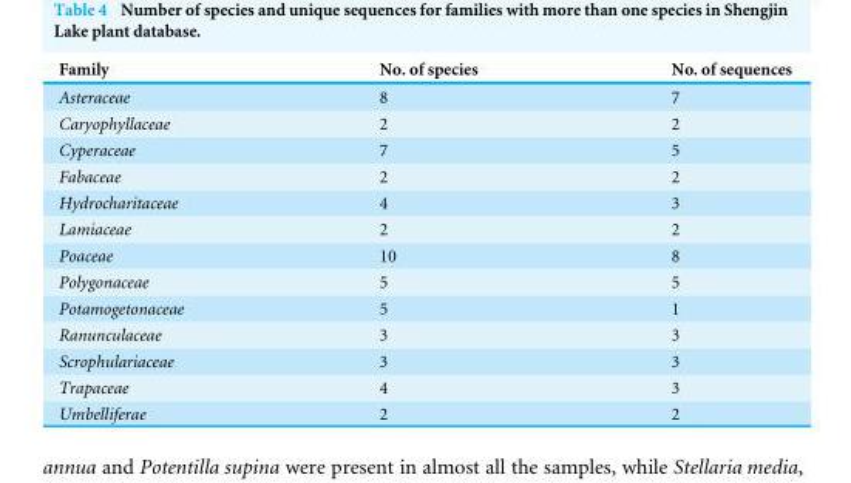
<table><thead><tr><td>Family</td><td>No. of species</td><td>No. of sequences</td></tr></thead><tbody><tr><td>Asteraceae</td><td>8</td><td>7</td></tr><tr><td>Caryophyllaceae</td><td>2</td><td>2</td></tr><tr><td>Cyperaceae</td><td>7</td><td>5</td></tr><tr><td>Fabaceae</td><td>2</td><td>2</td></tr><tr><td>Hydrocharitaceae</td><td>4</td><td>3</td></tr><tr><td>Lamiaceae</td><td>2</td><td>2</td></tr><tr><td>Poaceae</td><td>10</td><td>8</td></tr><tr><td>Polygonaceae</td><td>5</td><td>5</td></tr><tr><td>Potamogetonaceae</td><td>5</td><td>1</td></tr><tr><td>Ranunculaceae</td><td>3</td><td>3</td></tr><tr><td>Scrophulariaceae</td><td>3</td><td>3</td></tr><tr><td>Trapaceae</td><td>4</td><td>3</td></tr><tr><td>Umbelliferae</td><td>2</td><td>2</td></tr></tbody></table>